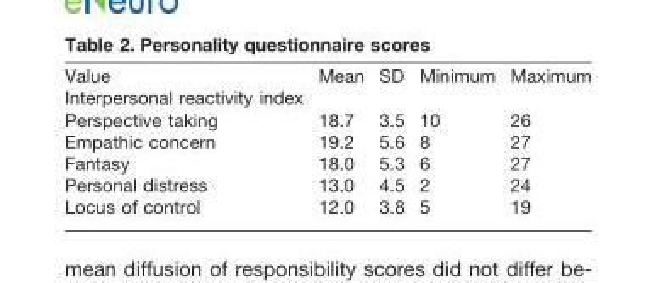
<table><thead><tr><td>Value</td><td>Mean</td><td>SD</td><td>Minimum</td><td>Maximum</td></tr></thead><tbody><tr><td colspan="5">Interpersonal reactivity index</td></tr><tr><td>Perspective taking</td><td>18.7</td><td>3.5</td><td>10</td><td>26</td></tr><tr><td>Empathic concern</td><td>19.2</td><td>5.6</td><td>8</td><td>27</td></tr><tr><td>Fantasy</td><td>18.0</td><td>5.3</td><td>6</td><td>27</td></tr><tr><td>Personal distress</td><td>13.0</td><td>4.5</td><td>2</td><td>24</td></tr><tr><td>Locus of control</td><td>12.0</td><td>3.8</td><td>5</td><td>19</td></tr></tbody></table>